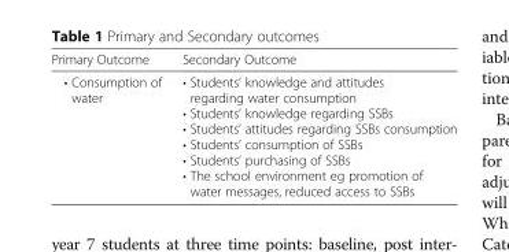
<table><thead><tr><td>Primary Outcome</td><td>Secondary Outcome</td></tr></thead><tbody><tr><td>• Consumption of water</td><td>• Students’ knowledge and attitudes regarding water consumption • Students’ knowledge regarding SSBs • Students’ attitudes regarding SSBs consumption • Students’ consumption of SSBs • Students’ purchasing of SSBs • The school environment eg promotion of water messages, reduced access to SSBs</td></tr></tbody></table>